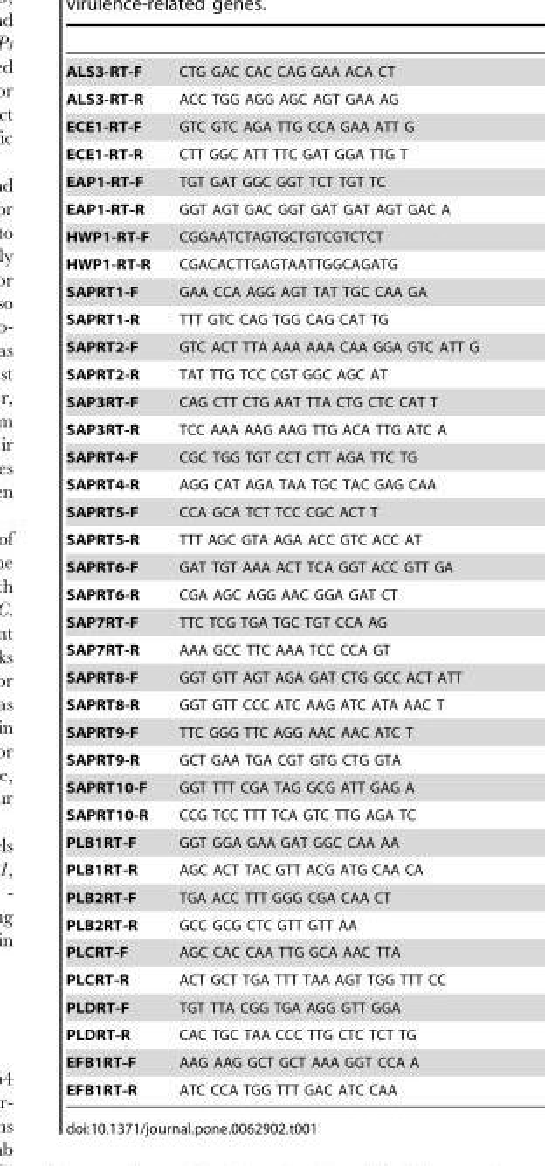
<table><tbody><tr><td>ALS3-RT-F</td><td>CTG GAC CAC CAG GAA ACA CT</td></tr><tr><td>ALS3-RT-R</td><td>ACC TGG AGG AGC AGT GAA AG</td></tr><tr><td>ECE1-RT-F</td><td>GTC GTC AGA TTG CCA GAA ATT G</td></tr><tr><td>ECE1-RT-R</td><td>CTT GGC ATT TTC GAT GGA TTG T</td></tr><tr><td>EAP1-RT-F</td><td>TGT GAT GGC GGT TCT TGT TC</td></tr><tr><td>EAP1-RT-R</td><td>GGT AGT GAC GGT GAT GAT AGT GAC A</td></tr><tr><td>HWP1-RT-F</td><td>CGGAATCTAGTGCTGTCGTCTCT</td></tr><tr><td>HWP1-RT-R</td><td>CGACACTTGAGTAATTGGCAGATG</td></tr><tr><td>SAPRT1-F</td><td>GAA CCA AGG AGT TAT TGC CAA GA</td></tr><tr><td>SAPRT1-R</td><td>TTT GTC CAG TGG CAG CAT TG</td></tr><tr><td>SAPRT2-F</td><td>GTC ACT TTA AAA AAA CAA GGA GTC ATT G</td></tr><tr><td>SAPRT2-R</td><td>TAT TTG TCC CGT GGC AGC AT</td></tr><tr><td>SAP3RT-F</td><td>CAG CTT CTG AAT TTA CTG CTC CAT T</td></tr><tr><td>SAP3RT-R</td><td>TCC AAA AAG AAG TTG ACA TTG ATC A</td></tr><tr><td>SAPRT4-F</td><td>CGC TGG TGT CCT CTT AGA TTC TG</td></tr><tr><td>SAPRT4-R</td><td>AGG CAT AGA TAA TGC TAC GAG CAA</td></tr><tr><td>SAPRT5-F</td><td>CCA GCA TCT TCC CGC ACT T</td></tr><tr><td>SAPRT5-R</td><td>TTT AGC GTA AGA ACC GTC ACC AT</td></tr><tr><td>SAPRT6-F</td><td>GAT TGT AAA ACT TCA GGT ACC GTT GA</td></tr><tr><td>SAPRT6-R</td><td>CGA AGC AGG AAC GGA GAT CT</td></tr><tr><td>SAP7RT-F</td><td>TTC TCG TGA TGC TGT CCA AG</td></tr><tr><td>SAP7RT-R</td><td>AAA GCC TTC AAA TCC CCA GT</td></tr><tr><td>SAPRT8-F</td><td>GGT GTT AGT AGA GAT CTG GCC ACT ATT</td></tr><tr><td>SAPRT8-R</td><td>GGT GTT CCC ATC AAG ATC ATA AAC T</td></tr><tr><td>SAPRT9-F</td><td>TTC GGG TTC AGG AAC AAC ATC T</td></tr><tr><td>SAPRT9-R</td><td>GCT GAA TGA CGT GTG CTG GTA</td></tr><tr><td>SAPRT10-F</td><td>GGT TTT CGA TAG GCG ATT GAG A</td></tr><tr><td>SAPRT10-R</td><td>CCG TCC TTT TCA GTC TTG AGA TC</td></tr><tr><td>PLB1RT-F</td><td>GGT GGA GAA GAT GGC CAA AA</td></tr><tr><td>PLB1RT-R</td><td>AGC ACT TAC GTT ACG ATG CAA CA</td></tr><tr><td>PLB2RT-F</td><td>TGA ACC TTT GGG CGA CAA CT</td></tr><tr><td>PLB2RT-R</td><td>GCC GCG CTC GTT GTT AA</td></tr><tr><td>PLCRT-F</td><td>AGC CAC CAA TTG GCA AAC TTA</td></tr><tr><td>PLCRT-R</td><td>ACT GCT TGA TTT TAA AGT TGG TTT CC</td></tr><tr><td>PLDRT-F</td><td>TGT TTA CGG TGA AGG GTT GGA</td></tr><tr><td>PLDRT-R</td><td>CAC TGC TAA CCC TTG CTC TCT TG</td></tr><tr><td>EFB1RT-F</td><td>AAG AAG GCT GCT AAA GGT CCA A</td></tr><tr><td>EFB1RT-R</td><td>ATC CCA TGG TTT GAC ATC CAA</td></tr></tbody></table>